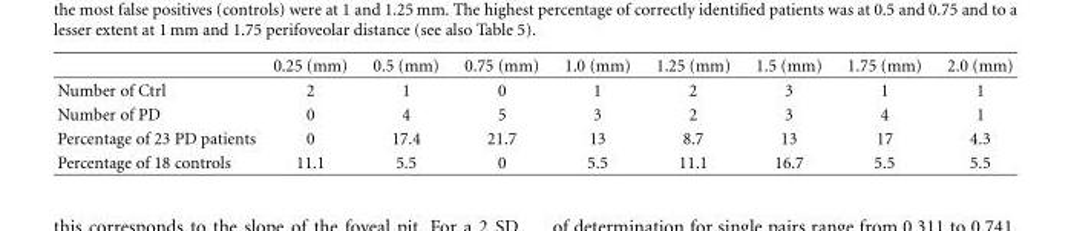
<table><thead><tr><td></td><td>0.25 (mm)</td><td>0.5 (mm)</td><td>0.75 (mm)</td><td>1.0 (mm)</td><td>1.25 (mm)</td><td>1.5 (mm)</td><td>1.75 (mm)</td><td>2.0 (mm)</td></tr></thead><tbody><tr><td>Number of Ctrl</td><td>2</td><td>1</td><td>0</td><td>1</td><td>2</td><td>3</td><td>1</td><td>1</td></tr><tr><td>Number of PD</td><td>0</td><td>4</td><td>5</td><td>3</td><td>2</td><td>3</td><td>4</td><td>1</td></tr><tr><td>Percentage of 23 PD patients</td><td>0</td><td>17.4</td><td>21.7</td><td>13</td><td>8.7</td><td>13</td><td>17</td><td>4.3</td></tr><tr><td>Percentage of 18 controls</td><td>11.1</td><td>5.5</td><td>0</td><td>5.5</td><td>11.1</td><td>16.7</td><td>5.5</td><td>5.5</td></tr></tbody></table>